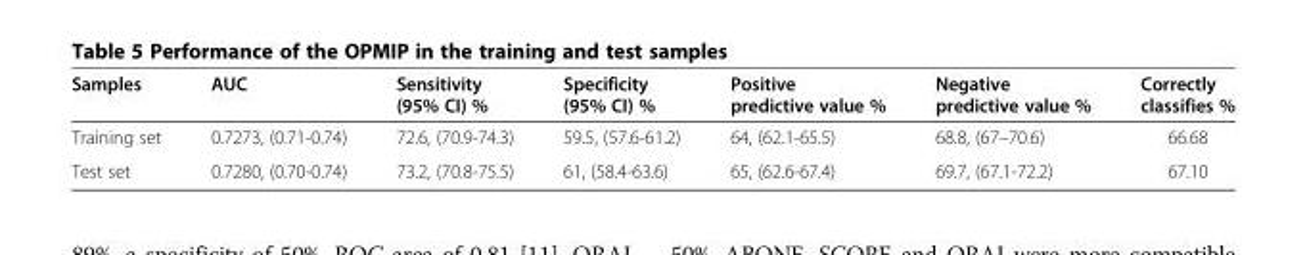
<table><thead><tr><td>Samples</td><td>AUC</td><td>Sensitivity (95% CI) %</td><td>Specificity (95% CI) %</td><td>Positive predictive value %</td><td>Negative predictive value %</td><td>Correctly classifies %</td></tr></thead><tbody><tr><td>Training set</td><td>0.7273, (0.71-0.74)</td><td>72.6, (70.9-74.3)</td><td>59.5, (57.6-61.2)</td><td>64, (62.1-65.5)</td><td>68.8, (67–70.6)</td><td>66.68</td></tr><tr><td>Test set</td><td>0.7280, (0.70-0.74)</td><td>73.2, (70.8-75.5)</td><td>61, (58.4-63.6)</td><td>65, (62.6-67.4)</td><td>69.7, (67.1-72.2)</td><td>67.10</td></tr></tbody></table>